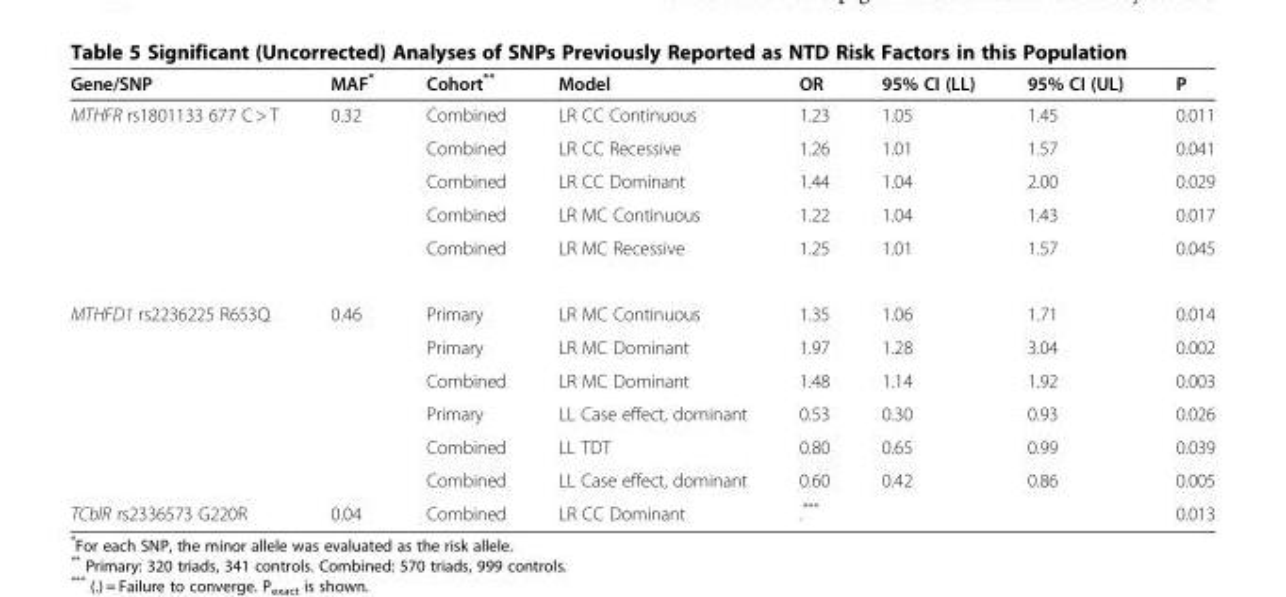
<table><thead><tr><td>Gene/SNP</td><td>MAF*</td><td>Cohort**</td><td>Model</td><td>OR</td><td>95% CI (LL)</td><td>95% CI (UL)</td><td>P</td></tr></thead><tbody><tr><td rowspan="5">MTHFR rs1801133 677 C &gt; T</td><td>0.32</td><td>Combined</td><td>LR CC Continuous</td><td>1.23</td><td>1.05</td><td>1.45</td><td>0.011</td></tr><tr><td></td><td>Combined</td><td>LR CC Recessive</td><td>1.26</td><td>1.01</td><td>1.57</td><td>0.041</td></tr><tr><td></td><td>Combined</td><td>LR CC Dominant</td><td>1.44</td><td>1.04</td><td>2.00</td><td>0.029</td></tr><tr><td></td><td>Combined</td><td>LR MC Continuous</td><td>1.22</td><td>1.04</td><td>1.43</td><td>0.017</td></tr><tr><td></td><td>Combined</td><td>LR MC Recessive</td><td>1.25</td><td>1.01</td><td>1.57</td><td>0.045</td></tr><tr><td rowspan="6">MTHFD1 rs2236225 R653Q</td><td>0.46</td><td>Primary</td><td>LR MC Continuous</td><td>1.35</td><td>1.06</td><td>1.71</td><td>0.014</td></tr><tr><td></td><td>Primary</td><td>LR MC Dominant</td><td>1.97</td><td>1.28</td><td>3.04</td><td>0.002</td></tr><tr><td></td><td>Combined</td><td>LR MC Dominant</td><td>1.48</td><td>1.14</td><td>1.92</td><td>0.003</td></tr><tr><td></td><td>Primary</td><td>LL Case effect, dominant</td><td>0.53</td><td>0.30</td><td>0.93</td><td>0.026</td></tr><tr><td></td><td>Combined</td><td>LL TDT</td><td>0.80</td><td>0.65</td><td>0.99</td><td>0.039</td></tr><tr><td></td><td>Combined</td><td>LL Case effect, dominant</td><td>0.60</td><td>0.42</td><td>0.86</td><td>0.005</td></tr><tr><td>TCblR rs2336573 G220R</td><td>0.04</td><td>Combined</td><td>LR CC Dominant</td><td>.***</td><td></td><td></td><td>0.013</td></tr></tbody></table>